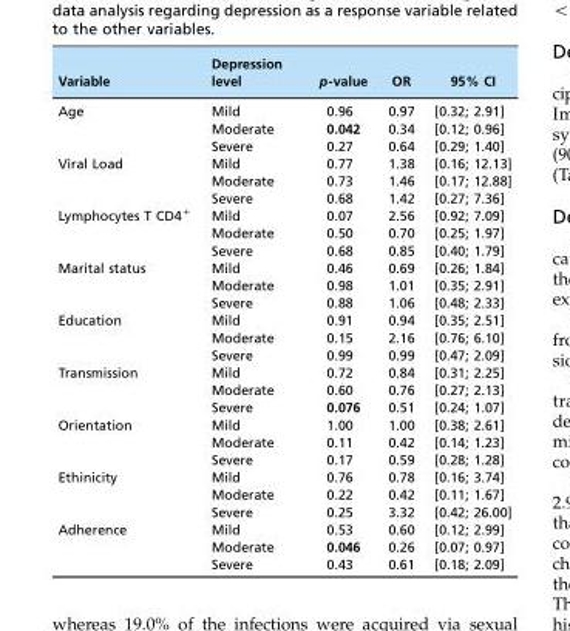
<table><thead><tr><td>Variable</td><td>Depression level</td><td>p-value</td><td>OR</td><td>95% CI</td></tr></thead><tbody><tr><td rowspan="3">Age</td><td>Mild</td><td>0.96</td><td>0.97</td><td>[0.32; 2.91]</td></tr><tr><td>Moderate</td><td>0.042</td><td>0.34</td><td>[0.12; 0.96]</td></tr><tr><td>Severe</td><td>0.27</td><td>0.64</td><td>[0.29; 1.40]</td></tr><tr><td rowspan="3">Viral Load</td><td>Mild</td><td>0.77</td><td>1.38</td><td>[0.16; 12.13]</td></tr><tr><td>Moderate</td><td>0.73</td><td>1.46</td><td>[0.17; 12.88]</td></tr><tr><td>Severe</td><td>0.68</td><td>1.42</td><td>[0.27; 7.36]</td></tr><tr><td rowspan="3">Lymphocytes T CD4+</td><td>Mild</td><td>0.07</td><td>2.56</td><td>[0.92; 7.09]</td></tr><tr><td>Moderate</td><td>0.50</td><td>0.70</td><td>[0.25; 1.97]</td></tr><tr><td>Severe</td><td>0.68</td><td>0.85</td><td>[0.40; 1.79]</td></tr><tr><td rowspan="3">Marital status</td><td>Mild</td><td>0.46</td><td>0.69</td><td>[0.26; 1.84]</td></tr><tr><td>Moderate</td><td>0.98</td><td>1.01</td><td>[0.35; 2.91]</td></tr><tr><td>Severe</td><td>0.88</td><td>1.06</td><td>[0.48; 2.33]</td></tr><tr><td rowspan="3">Education</td><td>Mild</td><td>0.91</td><td>0.94</td><td>[0.35; 2.51]</td></tr><tr><td>Moderate</td><td>0.15</td><td>2.16</td><td>[0.76; 6.10]</td></tr><tr><td>Severe</td><td>0.99</td><td>0.99</td><td>[0.47; 2.09]</td></tr><tr><td rowspan="3">Transmission</td><td>Mild</td><td>0.72</td><td>0.84</td><td>[0.31; 2.25]</td></tr><tr><td>Moderate</td><td>0.60</td><td>0.76</td><td>[0.27; 2.13]</td></tr><tr><td>Severe</td><td>0.076</td><td>0.51</td><td>[0.24; 1.07]</td></tr><tr><td rowspan="3">Orientation</td><td>Mild</td><td>1.00</td><td>1.00</td><td>[0.38; 2.61]</td></tr><tr><td>Moderate</td><td>0.11</td><td>0.42</td><td>[0.14; 1.23]</td></tr><tr><td>Severe</td><td>0.17</td><td>0.59</td><td>[0.28; 1.28]</td></tr><tr><td rowspan="3">Ethinicity</td><td>Mild</td><td>0.76</td><td>0.78</td><td>[0.16; 3.74]</td></tr><tr><td>Moderate</td><td>0.22</td><td>0.42</td><td>[0.11; 1.67]</td></tr><tr><td>Severe</td><td>0.25</td><td>3.32</td><td>[0.42; 26.00]</td></tr><tr><td rowspan="3">Adherence</td><td>Mild</td><td>0.53</td><td>0.60</td><td>[0.12; 2.99]</td></tr><tr><td>Moderate</td><td>0.046</td><td>0.26</td><td>[0.07; 0.97]</td></tr><tr><td>Severe</td><td>0.43</td><td>0.61</td><td>[0.18; 2.09]</td></tr></tbody></table>